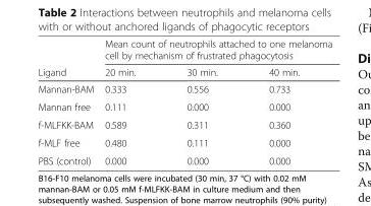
<table><thead><tr><td rowspan="2">Ligand</td><td colspan="3">Mean count of neutrophils attached to one melanoma cell by mechanism of frustrated phagocytosis</td></tr><tr><td>20 min.</td><td>30 min.</td><td>40 min.</td></tr></thead><tbody><tr><td>Mannan-BAM</td><td>0.333</td><td>0.556</td><td>0.733</td></tr><tr><td>Mannan free</td><td>0.111</td><td>0.000</td><td>0.000</td></tr><tr><td>f-MLFKK-BAM</td><td>0.589</td><td>0.311</td><td>0.360</td></tr><tr><td>f-MLF free</td><td>0.480</td><td>0.111</td><td>0.000</td></tr><tr><td>PBS (control)</td><td>0.000</td><td>0.000</td><td>0.000</td></tr></tbody></table>